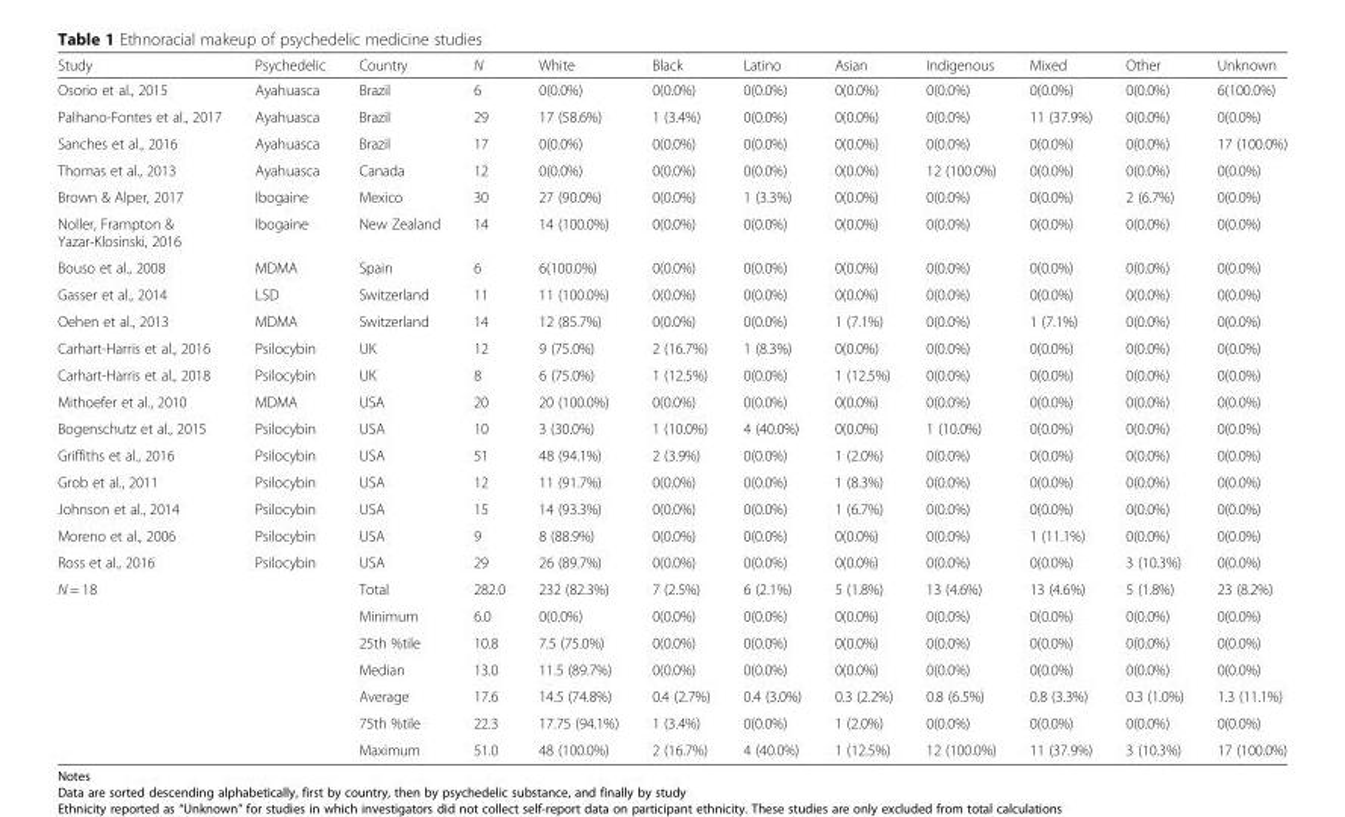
<table><thead><tr><td>Study</td><td>Psychedelic</td><td>Country</td><td>N</td><td>White</td><td>Black</td><td>Latino</td><td>Asian</td><td>Indigenous</td><td>Mixed</td><td>Other</td><td>Unknown</td></tr></thead><tbody><tr><td>Osorio et al., 2015</td><td>Ayahuasca</td><td>Brazil</td><td>6</td><td>0(0.0%)</td><td>0(0.0%)</td><td>0(0.0%)</td><td>0(0.0%)</td><td>0(0.0%)</td><td>0(0.0%)</td><td>0(0.0%)</td><td>6(100.0%)</td></tr><tr><td>Palhano-Fontes et al., 2017</td><td>Ayahuasca</td><td>Brazil</td><td>29</td><td>17 (58.6%)</td><td>1 (3.4%)</td><td>0(0.0%)</td><td>0(0.0%)</td><td>0(0.0%)</td><td>11 (37.9%)</td><td>0(0.0%)</td><td>0(0.0%)</td></tr><tr><td>Sanches et al., 2016</td><td>Ayahuasca</td><td>Brazil</td><td>17</td><td>0(0.0%)</td><td>0(0.0%)</td><td>0(0.0%)</td><td>0(0.0%)</td><td>0(0.0%)</td><td>0(0.0%)</td><td>0(0.0%)</td><td>17 (100.0%)</td></tr><tr><td>Thomas et al., 2013</td><td>Ayahuasca</td><td>Canada</td><td>12</td><td>0(0.0%)</td><td>0(0.0%)</td><td>0(0.0%)</td><td>0(0.0%)</td><td>12 (100.0%)</td><td>0(0.0%)</td><td>0(0.0%)</td><td>0(0.0%)</td></tr><tr><td>Brown &amp; Alper, 2017</td><td>Ibogaine</td><td>Mexico</td><td>30</td><td>27 (90.0%)</td><td>0(0.0%)</td><td>1 (3.3%)</td><td>0(0.0%)</td><td>0(0.0%)</td><td>0(0.0%)</td><td>2 (6.7%)</td><td>0(0.0%)</td></tr><tr><td>Noller, Frampton &amp; Yazar-Klosinski, 2016</td><td>Ibogaine</td><td>New Zealand</td><td>14</td><td>14 (100.0%)</td><td>0(0.0%)</td><td>0(0.0%)</td><td>0(0.0%)</td><td>0(0.0%)</td><td>0(0.0%)</td><td>0(0.0%)</td><td>0(0.0%)</td></tr><tr><td>Bouso et al., 2008</td><td>MDMA</td><td>Spain</td><td>6</td><td>6(100.0%)</td><td>0(0.0%)</td><td>0(0.0%)</td><td>0(0.0%)</td><td>0(0.0%)</td><td>0(0.0%)</td><td>0(0.0%)</td><td>0(0.0%)</td></tr><tr><td>Gasser et al., 2014</td><td>LSD</td><td>Switzerland</td><td>11</td><td>11 (100.0%)</td><td>0(0.0%)</td><td>0(0.0%)</td><td>0(0.0%)</td><td>0(0.0%)</td><td>0(0.0%)</td><td>0(0.0%)</td><td>0(0.0%)</td></tr><tr><td>Oehen et al., 2013</td><td>MDMA</td><td>Switzerland</td><td>14</td><td>12 (85.7%)</td><td>0(0.0%)</td><td>0(0.0%)</td><td>1 (7.1%)</td><td>0(0.0%)</td><td>1 (7.1%)</td><td>0(0.0%)</td><td>0(0.0%)</td></tr><tr><td>Carhart-Harris et al., 2016</td><td>Psilocybin</td><td>UK</td><td>12</td><td>9 (75.0%)</td><td>2 (16.7%)</td><td>1 (8.3%)</td><td>0(0.0%)</td><td>0(0.0%)</td><td>0(0.0%)</td><td>0(0.0%)</td><td>0(0.0%)</td></tr><tr><td>Carhart-Harris et al., 2018</td><td>Psilocybin</td><td>UK</td><td>8</td><td>6 (75.0%)</td><td>1 (12.5%)</td><td>0(0.0%)</td><td>1 (12.5%)</td><td>0(0.0%)</td><td>0(0.0%)</td><td>0(0.0%)</td><td>0(0.0%)</td></tr><tr><td>Mithoefer et al., 2010</td><td>MDMA</td><td>USA</td><td>20</td><td>20 (100.0%)</td><td>0(0.0%)</td><td>0(0.0%)</td><td>0(0.0%)</td><td>0(0.0%)</td><td>0(0.0%)</td><td>0(0.0%)</td><td>0(0.0%)</td></tr><tr><td>Bogenschutz et al., 2015</td><td>Psilocybin</td><td>USA</td><td>10</td><td>3 (30.0%)</td><td>1 (10.0%)</td><td>4 (40.0%)</td><td>0(0.0%)</td><td>1 (10.0%)</td><td>0(0.0%)</td><td>0(0.0%)</td><td>0(0.0%)</td></tr><tr><td>Griffiths et al., 2016</td><td>Psilocybin</td><td>USA</td><td>51</td><td>48 (94.1%)</td><td>2 (3.9%)</td><td>0(0.0%)</td><td>1 (2.0%)</td><td>0(0.0%)</td><td>0(0.0%)</td><td>0(0.0%)</td><td>0(0.0%)</td></tr><tr><td>Grob et al., 2011</td><td>Psilocybin</td><td>USA</td><td>12</td><td>11 (91.7%)</td><td>0(0.0%)</td><td>0(0.0%)</td><td>1 (8.3%)</td><td>0(0.0%)</td><td>0(0.0%)</td><td>0(0.0%)</td><td>0(0.0%)</td></tr><tr><td>Johnson et al., 2014</td><td>Psilocybin</td><td>USA</td><td>15</td><td>14 (93.3%)</td><td>0(0.0%)</td><td>0(0.0%)</td><td>1 (6.7%)</td><td>0(0.0%)</td><td>0(0.0%)</td><td>0(0.0%)</td><td>0(0.0%)</td></tr><tr><td>Moreno et al., 2006</td><td>Psilocybin</td><td>USA</td><td>9</td><td>8 (88.9%)</td><td>0(0.0%)</td><td>0(0.0%)</td><td>0(0.0%)</td><td>0(0.0%)</td><td>1 (11.1%)</td><td>0(0.0%)</td><td>0(0.0%)</td></tr><tr><td>Ross et al., 2016</td><td>Psilocybin</td><td>USA</td><td>29</td><td>26 (89.7%)</td><td>0(0.0%)</td><td>0(0.0%)</td><td>0(0.0%)</td><td>0(0.0%)</td><td>0(0.0%)</td><td>3 (10.3%)</td><td>0(0.0%)</td></tr><tr><td rowspan="7">N = 18</td><td></td><td>Total</td><td>282.0</td><td>232 (82.3%)</td><td>7 (2.5%)</td><td>6 (2.1%)</td><td>5 (1.8%)</td><td>13 (4.6%)</td><td>13 (4.6%)</td><td>5 (1.8%)</td><td>23 (8.2%)</td></tr><tr><td></td><td>Minimum</td><td>6.0</td><td>0(0.0%)</td><td>0(0.0%)</td><td>0(0.0%)</td><td>0(0.0%)</td><td>0(0.0%)</td><td>0(0.0%)</td><td>0(0.0%)</td><td>0(0.0%)</td></tr><tr><td></td><td>25th %tile</td><td>10.8</td><td>7.5 (75.0%)</td><td>0(0.0%)</td><td>0(0.0%)</td><td>0(0.0%)</td><td>0(0.0%)</td><td>0(0.0%)</td><td>0(0.0%)</td><td>0(0.0%)</td></tr><tr><td></td><td>Median</td><td>13.0</td><td>11.5 (89.7%)</td><td>0(0.0%)</td><td>0(0.0%)</td><td>0(0.0%)</td><td>0(0.0%)</td><td>0(0.0%)</td><td>0(0.0%)</td><td>0(0.0%)</td></tr><tr><td></td><td>Average</td><td>17.6</td><td>14.5 (74.8%)</td><td>0.4 (2.7%)</td><td>0.4 (3.0%)</td><td>0.3 (2.2%)</td><td>0.8 (6.5%)</td><td>0.8 (3.3%)</td><td>0.3 (1.0%)</td><td>1.3 (11.1%)</td></tr><tr><td></td><td>75th %tile</td><td>22.3</td><td>17.75 (94.1%)</td><td>1 (3.4%)</td><td>0(0.0%)</td><td>1 (2.0%)</td><td>0(0.0%)</td><td>0(0.0%)</td><td>0(0.0%)</td><td>0(0.0%)</td></tr><tr><td></td><td>Maximum</td><td>51.0</td><td>48 (100.0%)</td><td>2 (16.7%)</td><td>4 (40.0%)</td><td>1 (12.5%)</td><td>12 (100.0%)</td><td>11 (37.9%)</td><td>3 (10.3%)</td><td>17 (100.0%)</td></tr></tbody></table>